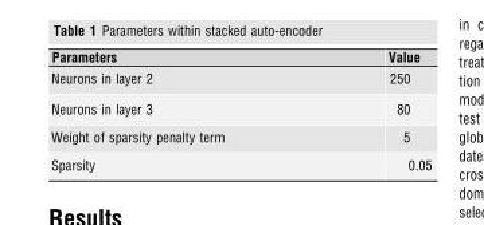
<table><thead><tr><td>Parameters</td><td>Value</td></tr></thead><tbody><tr><td>Neurons in layer 2</td><td>250</td></tr><tr><td>Neurons in layer 3</td><td>80</td></tr><tr><td>Weight of sparsity penalty term</td><td>5</td></tr><tr><td>Sparsity</td><td>0.05</td></tr></tbody></table>